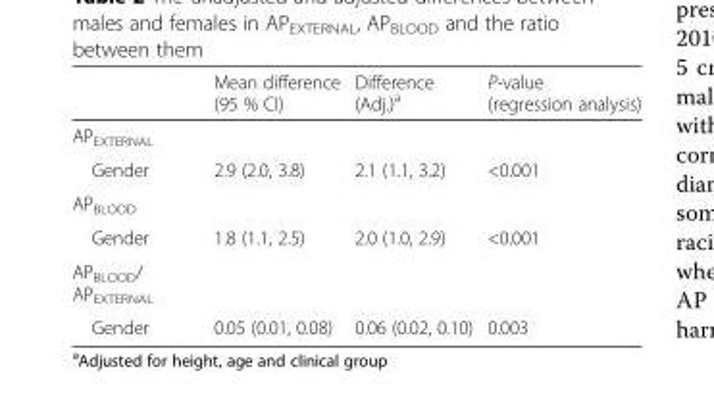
<table><thead><tr><td></td><td>Mean difference (95 % CI)</td><td>Difference (Adj.)<sup>a</sup></td><td>P-value (regression analysis)</td></tr></thead><tbody><tr><td colspan="4">AP<sub>EXTERNAL</sub></td></tr><tr><td>Gender</td><td>2.9 (2.0, 3.8)</td><td>2.1 (1.1, 3.2)</td><td>&lt;0.001</td></tr><tr><td colspan="4">AP<sub>BLOOD</sub></td></tr><tr><td>Gender</td><td>1.8 (1.1, 2.5)</td><td>2.0 (1.0, 2.9)</td><td>&lt;0.001</td></tr><tr><td colspan="4">AP<sub>BLOOD</sub>/ AP<sub>EXTERNAL</sub></td></tr><tr><td>Gender</td><td>0.05 (0.01, 0.08)</td><td>0.06 (0.02, 0.10)</td><td>0.003</td></tr></tbody></table>